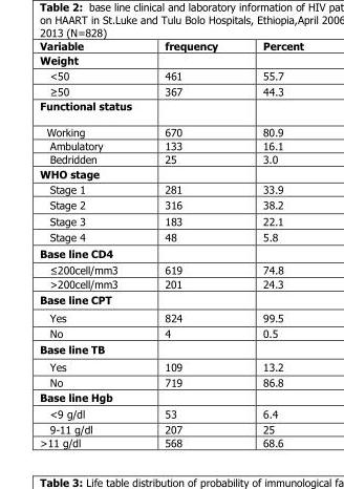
<table><thead><tr><td>Variable</td><td>frequency</td><td>Percent</td></tr></thead><tbody><tr><td colspan="3">Weight</td></tr><tr><td>&lt;50</td><td>461</td><td>55.7</td></tr><tr><td>≥50</td><td>367</td><td>44.3</td></tr><tr><td colspan="3">Functional status</td></tr><tr><td>Working</td><td>670</td><td>80.9</td></tr><tr><td>Ambulatory</td><td>133</td><td>16.1</td></tr><tr><td>Bedridden</td><td>25</td><td>3.0</td></tr><tr><td colspan="3">WHO stage</td></tr><tr><td>Stage 1</td><td>281</td><td>33.9</td></tr><tr><td>Stage 2</td><td>316</td><td>38.2</td></tr><tr><td>Stage 3</td><td>183</td><td>22.1</td></tr><tr><td>Stage 4</td><td>48</td><td>5.8</td></tr><tr><td colspan="3">Base line CD4</td></tr><tr><td>≤200cell/mm3</td><td>619</td><td>74.8</td></tr><tr><td>&gt;200cell/mm3</td><td>201</td><td>24.3</td></tr><tr><td colspan="3">Base line CPT</td></tr><tr><td>Yes</td><td>824</td><td>99.5</td></tr><tr><td>No</td><td>4</td><td>0.5</td></tr><tr><td colspan="3">Base line TB</td></tr><tr><td>Yes</td><td>109</td><td>13.2</td></tr><tr><td>No</td><td>719</td><td>86.8</td></tr><tr><td colspan="3">Base line Hgb</td></tr><tr><td>&lt;9 g/dl</td><td>53</td><td>6.4</td></tr><tr><td>9-11 g/dl</td><td>207</td><td>25</td></tr><tr><td>&gt;11 g/dl</td><td>568</td><td>68.6</td></tr></tbody></table>